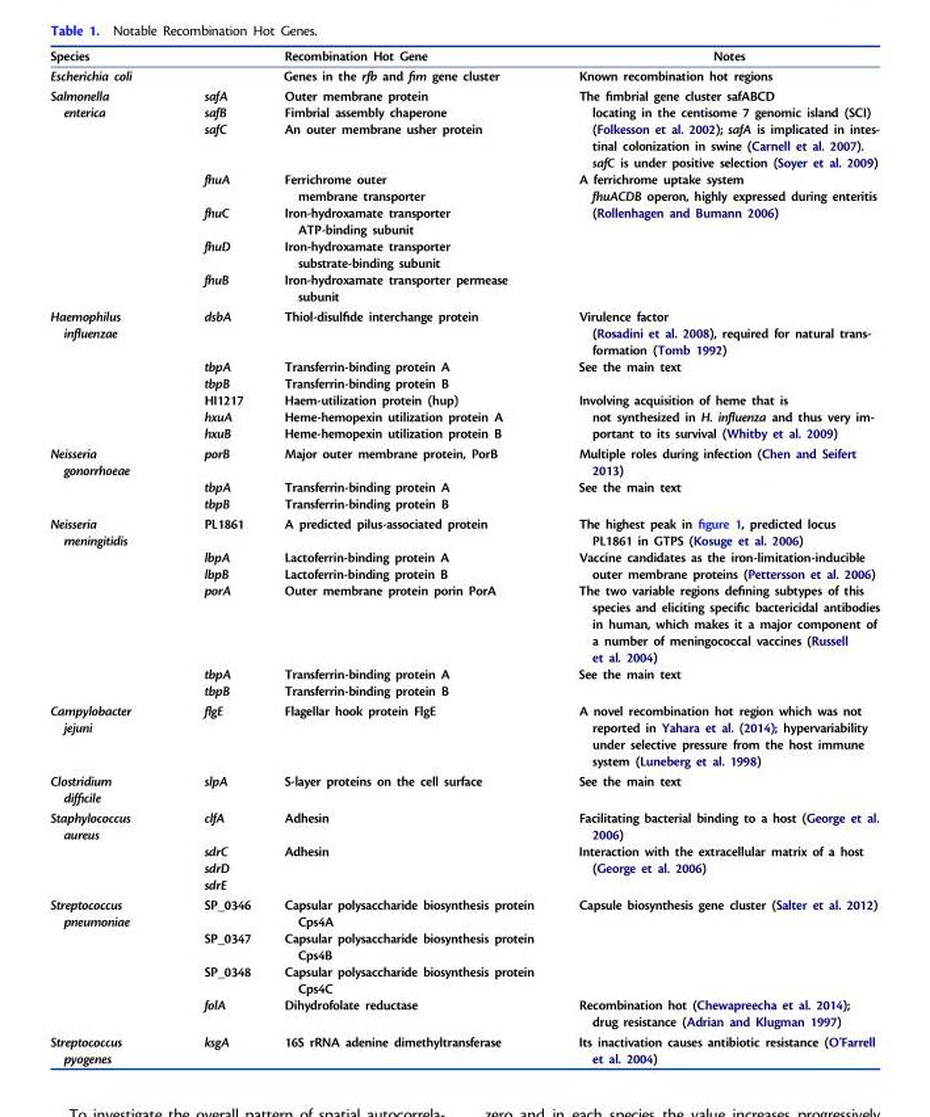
<table><thead><tr><td>Species</td><td></td><td>Recombination Hot Gene</td><td>Notes</td></tr></thead><tbody><tr><td>Escherichia coli</td><td colspan="2">Genes in the rfb and fim gene cluster</td><td>Known recombination hot regions</td></tr><tr><td rowspan="7">Salmonella enterica</td><td>safA</td><td>Outer membrane protein</td><td rowspan="3">The fimbrial gene cluster safABCD locating in the centisome 7 genomic island (SCI) (Folkesson et al. 2002); safA is implicated in intes- tinal colonization in swine (Carnell et al. 2007). safC is under positive selection (Soyer et al. 2009)</td></tr><tr><td>safB</td><td>Fimbrial assembly chaperone</td></tr><tr><td>safC</td><td>An outer membrane usher protein</td></tr><tr><td>fhuA</td><td>Ferrichrome outer membrane transporter</td><td rowspan="4">A ferrichrome uptake system fhuACDB operon, highly expressed during enteritis (Rollenhagen and Bumann 2006)</td></tr><tr><td>fhuC</td><td>Iron-hydroxamate transporter ATP-binding subunit</td></tr><tr><td>fhuD</td><td>Iron-hydroxamate transporter substrate-binding subunit</td></tr><tr><td>fhuB</td><td>Iron-hydroxamate transporter permease subunit</td></tr><tr><td rowspan="6">Haemophilus influenzae</td><td>dsbA</td><td>Thiol-disulfide interchange protein</td><td>Virulence factor (Rosadini et al. 2008), required for natural trans- formation (Tomb 1992)</td></tr><tr><td>tbpA</td><td>Transferrin-binding protein A</td><td rowspan="2">See the main text</td></tr><tr><td>tbpB</td><td>Transferrin-binding protein B</td></tr><tr><td>HI1217</td><td>Haem-utilization protein (hup)</td><td rowspan="3">Involving acquisition of heme that is not synthesized in H. influenza and thus very im- portant to its survival (Whitby et al. 2009)</td></tr><tr><td>hxuA</td><td>Heme-hemopexin utilization protein A</td></tr><tr><td>hxuB</td><td>Heme-hemopexin utilization protein B</td></tr><tr><td rowspan="3">Neisseria gonorrhoeae</td><td>porB</td><td>Major outer membrane protein, PorB</td><td>Multiple roles during infection (Chen and Seifert 2013)</td></tr><tr><td>tbpA</td><td>Transferrin-binding protein A</td><td rowspan="2">See the main text</td></tr><tr><td>tbpB</td><td>Transferrin-binding protein B</td></tr><tr><td rowspan="6">Neisseria meningitidis</td><td>PL1861</td><td>A predicted pilus-associated protein</td><td>The highest peak in figure 1, predicted locus PL1861 in GTPS (Kosuge et al. 2006)</td></tr><tr><td>lbpA</td><td>Lactoferrin-binding protein A</td><td rowspan="2">Vaccine candidates as the iron-limitation-inducible outer membrane proteins (Pettersson et al. 2006)</td></tr><tr><td>lbpB</td><td>Lactoferrin-binding protein B</td></tr><tr><td>porA</td><td>Outer membrane protein porin PorA</td><td>The two variable regions defining subtypes of this species and eliciting specific bactericidal antibodies in human, which makes it a major component of a number of meningococcal vaccines (Russell et al. 2004)</td></tr><tr><td>tbpA</td><td>Transferrin-binding protein A</td><td rowspan="2">See the main text</td></tr><tr><td>tbpB</td><td>Transferrin-binding protein B</td></tr><tr><td>Campylobacter jejuni</td><td>flgE</td><td>Flagellar hook protein FlgE</td><td>A novel recombination hot region which was not reported in Yahara et al. (2014); hypervariability under selective pressure from the host immune system (Luneberg et al. 1998)</td></tr><tr><td>Clostridium difficile</td><td>slpA</td><td>S-layer proteins on the cell surface</td><td>See the main text</td></tr><tr><td rowspan="4">Staphylococcus aureus</td><td>clfA</td><td>Adhesin</td><td>Facilitating bacterial binding to a host (George et al. 2006)</td></tr><tr><td>sdrC</td><td rowspan="3">Adhesin</td><td rowspan="3">Interaction with the extracellular matrix of a host (George et al. 2006)</td></tr><tr><td>sdrD</td></tr><tr><td>sdrE</td></tr><tr><td rowspan="4">Streptococcus pneumoniae</td><td>SP_0346</td><td>Capsular polysaccharide biosynthesis protein Cps4A</td><td rowspan="3">Capsule biosynthesis gene cluster (Salter et al. 2012)</td></tr><tr><td>SP_0347</td><td>Capsular polysaccharide biosynthesis protein Cps4B</td></tr><tr><td>SP_0348</td><td>Capsular polysaccharide biosynthesis protein Cps4C</td></tr><tr><td>folA</td><td>Dihydrofolate reductase</td><td>Recombination hot (Chewapreecha et al. 2014); drug resistance (Adrian and Klugman 1997)</td></tr><tr><td>Streptococcus pyogenes</td><td>ksgA</td><td>16S rRNA adenine dimethyltransferase</td><td>Its inactivation causes antibiotic resistance (O’Farrell et al. 2004)</td></tr></tbody></table>